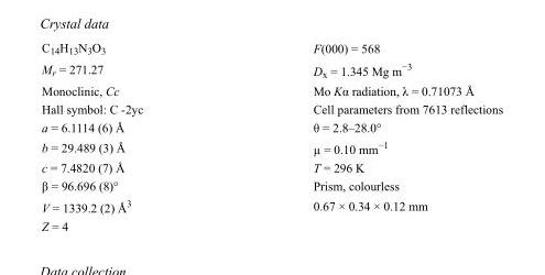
<table><tbody><tr><td>C<sub>14</sub>H<sub>13</sub>N<sub>3</sub>O<sub>3</sub></td><td>F(000) = 568</td></tr><tr><td>M<sub>r</sub> = 271.27</td><td>D<sub>x</sub> = 1.345 Mg m<sup>−3</sup></td></tr><tr><td>Monoclinic, Cc</td><td>Mo Kα radiation, λ = 0.71073 Å</td></tr><tr><td>Hall symbol: C -2yc</td><td>Cell parameters from 7613 reflections</td></tr><tr><td>a = 6.1114 (6) Å</td><td>θ = 2.8–28.0°</td></tr><tr><td>b = 29.489 (3) Å</td><td>µ = 0.10 mm<sup>−1</sup></td></tr><tr><td>c = 7.4820 (7) Å</td><td>T = 296 K</td></tr><tr><td>β = 96.696 (8)°</td><td>Prism, colourless</td></tr><tr><td>V = 1339.2 (2) Å<sup>3</sup></td><td>0.67 × 0.34 × 0.12 mm</td></tr><tr><td>Z = 4</td><td></td></tr></tbody></table>